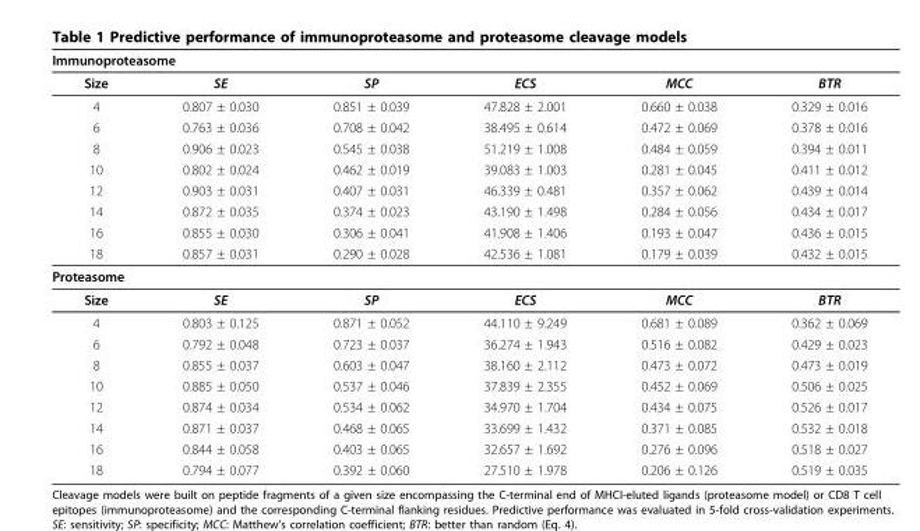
<table><thead><tr><td colspan="6">Immunoproteasome</td></tr><tr><td>Size</td><td>SE</td><td>SP</td><td>ECS</td><td>MCC</td><td>BTR</td></tr></thead><tbody><tr><td>4</td><td>0.807 ± 0.030</td><td>0.851 ± 0.039</td><td>47.828 ± 2.001</td><td>0.660 ± 0.038</td><td>0.329 ± 0.016</td></tr><tr><td>6</td><td>0.763 ± 0.036</td><td>0.708 ± 0.042</td><td>38.495 ± 0.614</td><td>0.472 ± 0.069</td><td>0.378 ± 0.016</td></tr><tr><td>8</td><td>0.906 ± 0.023</td><td>0.545 ± 0.038</td><td>51.219 ± 1.008</td><td>0.484 ± 0.059</td><td>0.394 ± 0.011</td></tr><tr><td>10</td><td>0.802 ± 0.024</td><td>0.462 ± 0.019</td><td>39.083 ± 1.003</td><td>0.281 ± 0.045</td><td>0.411 ± 0.012</td></tr><tr><td>12</td><td>0.903 ± 0.031</td><td>0.407 ± 0.031</td><td>46.339 ± 0.481</td><td>0.357 ± 0.062</td><td>0.439 ± 0.014</td></tr><tr><td>14</td><td>0.872 ± 0.035</td><td>0.374 ± 0.023</td><td>43.190 ± 1.498</td><td>0.284 ± 0.056</td><td>0.434 ± 0.017</td></tr><tr><td>16</td><td>0.855 ± 0.030</td><td>0.306 ± 0.041</td><td>41.908 ± 1.406</td><td>0.193 ± 0.047</td><td>0.436 ± 0.015</td></tr><tr><td>18</td><td>0.857 ± 0.031</td><td>0.290 ± 0.028</td><td>42.536 ± 1.081</td><td>0.179 ± 0.039</td><td>0.432 ± 0.015</td></tr><tr><td colspan="6">Proteasome</td></tr><tr><td>Size</td><td>SE</td><td>SP</td><td>ECS</td><td>MCC</td><td>BTR</td></tr><tr><td>4</td><td>0.803 ± 0.125</td><td>0.871 ± 0.052</td><td>44.110 ± 9.249</td><td>0.681 ± 0.089</td><td>0.362 ± 0.069</td></tr><tr><td>6</td><td>0.792 ± 0.048</td><td>0.723 ± 0.037</td><td>36.274 ± 1.943</td><td>0.516 ± 0.082</td><td>0.429 ± 0.023</td></tr><tr><td>8</td><td>0.855 ± 0.037</td><td>0.603 ± 0.047</td><td>38.160 ± 2.112</td><td>0.473 ± 0.072</td><td>0.473 ± 0.019</td></tr><tr><td>10</td><td>0.885 ± 0.050</td><td>0.537 ± 0.046</td><td>37.839 ± 2.355</td><td>0.452 ± 0.069</td><td>0.506 ± 0.025</td></tr><tr><td>12</td><td>0.874 ± 0.034</td><td>0.534 ± 0.062</td><td>34.970 ± 1.704</td><td>0.434 ± 0.075</td><td>0.526 ± 0.017</td></tr><tr><td>14</td><td>0.871 ± 0.037</td><td>0.468 ± 0.065</td><td>33.699 ± 1.432</td><td>0.371 ± 0.085</td><td>0.532 ± 0.018</td></tr><tr><td>16</td><td>0.844 ± 0.058</td><td>0.403 ± 0.065</td><td>32.657 ± 1.692</td><td>0.276 ± 0.096</td><td>0.518 ± 0.027</td></tr><tr><td>18</td><td>0.794 ± 0.077</td><td>0.392 ± 0.060</td><td>27.510 ± 1.978</td><td>0.206 ± 0.126</td><td>0.519 ± 0.035</td></tr></tbody></table>